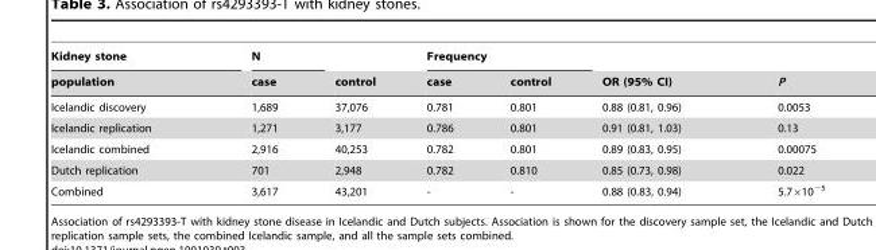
<table><thead><tr><td rowspan="2">Kidney stone population</td><td rowspan="2">N case</td><td rowspan="2">control</td><td colspan="2">Frequency</td><td rowspan="2">OR (95% CI)</td><td rowspan="2">P</td></tr><tr><td>case</td><td>control</td></tr></thead><tbody><tr><td>Icelandic discovery</td><td>1,689</td><td>37,076</td><td>0.781</td><td>0.801</td><td>0.88 (0.81, 0.96)</td><td>0.0053</td></tr><tr><td>Icelandic replication</td><td>1,271</td><td>3,177</td><td>0.786</td><td>0.801</td><td>0.91 (0.81, 1.03)</td><td>0.13</td></tr><tr><td>Icelandic combined</td><td>2,916</td><td>40,253</td><td>0.782</td><td>0.801</td><td>0.89 (0.83, 0.95)</td><td>0.00075</td></tr><tr><td>Dutch replication</td><td>701</td><td>2,948</td><td>0.782</td><td>0.810</td><td>0.85 (0.73, 0.98)</td><td>0.022</td></tr><tr><td>Combined</td><td>3,617</td><td>43,201</td><td>-</td><td>-</td><td>0.88 (0.83, 0.94)</td><td>5.7×10<sup>−5</sup></td></tr></tbody></table>